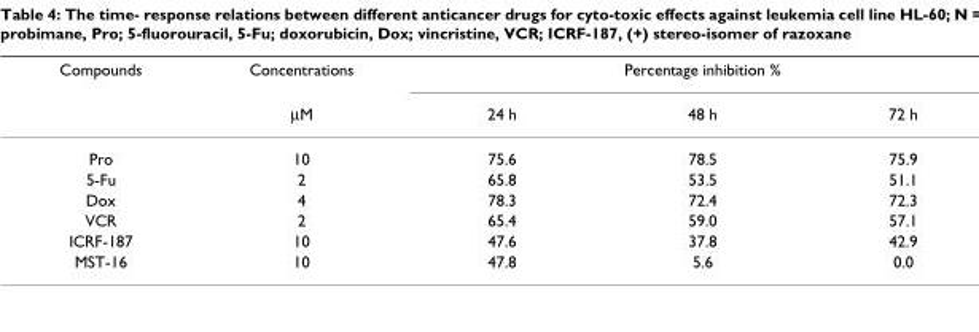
<table><thead><tr><td rowspan="2">Compounds</td><td rowspan="2">Concentrations µM</td><td colspan="3">Percentage inhibition %</td></tr><tr><td>24 h</td><td>48 h</td><td>72 h</td></tr></thead><tbody><tr><td>Pro</td><td>10</td><td>75.6</td><td>78.5</td><td>75.9</td></tr><tr><td>5-Fu</td><td>2</td><td>65.8</td><td>53.5</td><td>51.1</td></tr><tr><td>Dox</td><td>4</td><td>78.3</td><td>72.4</td><td>72.3</td></tr><tr><td>VCR</td><td>2</td><td>65.4</td><td>59.0</td><td>57.1</td></tr><tr><td>ICRF-187</td><td>10</td><td>47.6</td><td>37.8</td><td>42.9</td></tr><tr><td>MST-16</td><td>10</td><td>47.8</td><td>5.6</td><td>0.0</td></tr></tbody></table>